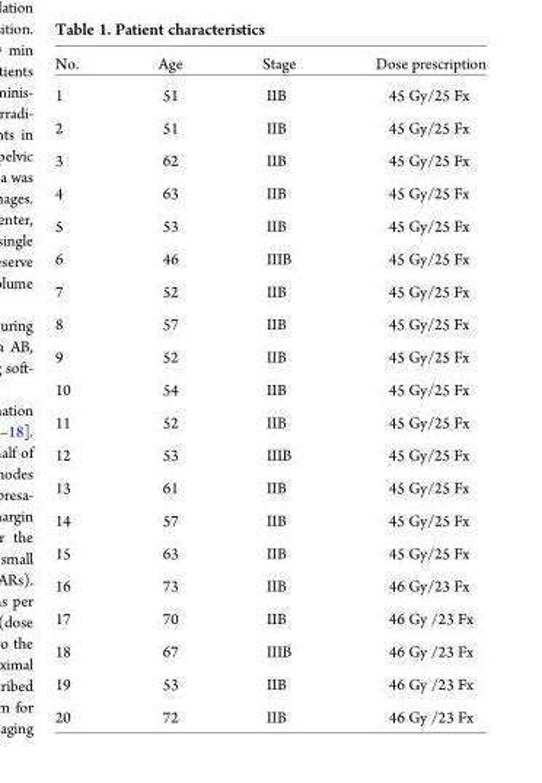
<table><thead><tr><td>No.</td><td>Age</td><td>Stage</td><td>Dose prescription</td></tr></thead><tbody><tr><td>1</td><td>51</td><td>IIB</td><td>45 Gy/25 Fx</td></tr><tr><td>2</td><td>51</td><td>IIB</td><td>45 Gy/25 Fx</td></tr><tr><td>3</td><td>62</td><td>IIB</td><td>45 Gy/25 Fx</td></tr><tr><td>4</td><td>63</td><td>IIB</td><td>45 Gy/25 Fx</td></tr><tr><td>5</td><td>53</td><td>IIB</td><td>45 Gy/25 Fx</td></tr><tr><td>6</td><td>46</td><td>IIIB</td><td>45 Gy/25 Fx</td></tr><tr><td>7</td><td>52</td><td>IIB</td><td>45 Gy/25 Fx</td></tr><tr><td>8</td><td>57</td><td>IIB</td><td>45 Gy/25 Fx</td></tr><tr><td>9</td><td>52</td><td>IIB</td><td>45 Gy/25 Fx</td></tr><tr><td>10</td><td>54</td><td>IIB</td><td>45 Gy/25 Fx</td></tr><tr><td>11</td><td>52</td><td>IIB</td><td>45 Gy/25 Fx</td></tr><tr><td>12</td><td>53</td><td>IIIB</td><td>45 Gy/25 Fx</td></tr><tr><td>13</td><td>61</td><td>IIB</td><td>45 Gy/25 Fx</td></tr><tr><td>14</td><td>57</td><td>IIB</td><td>45 Gy/25 Fx</td></tr><tr><td>15</td><td>63</td><td>IIB</td><td>45 Gy/25 Fx</td></tr><tr><td>16</td><td>73</td><td>IIB</td><td>46 Gy/23 Fx</td></tr><tr><td>17</td><td>70</td><td>IIB</td><td>46 Gy /23 Fx</td></tr><tr><td>18</td><td>67</td><td>IIIB</td><td>46 Gy /23 Fx</td></tr><tr><td>19</td><td>53</td><td>IIB</td><td>46 Gy /23 Fx</td></tr><tr><td>20</td><td>72</td><td>IIB</td><td>46 Gy /23 Fx</td></tr></tbody></table>